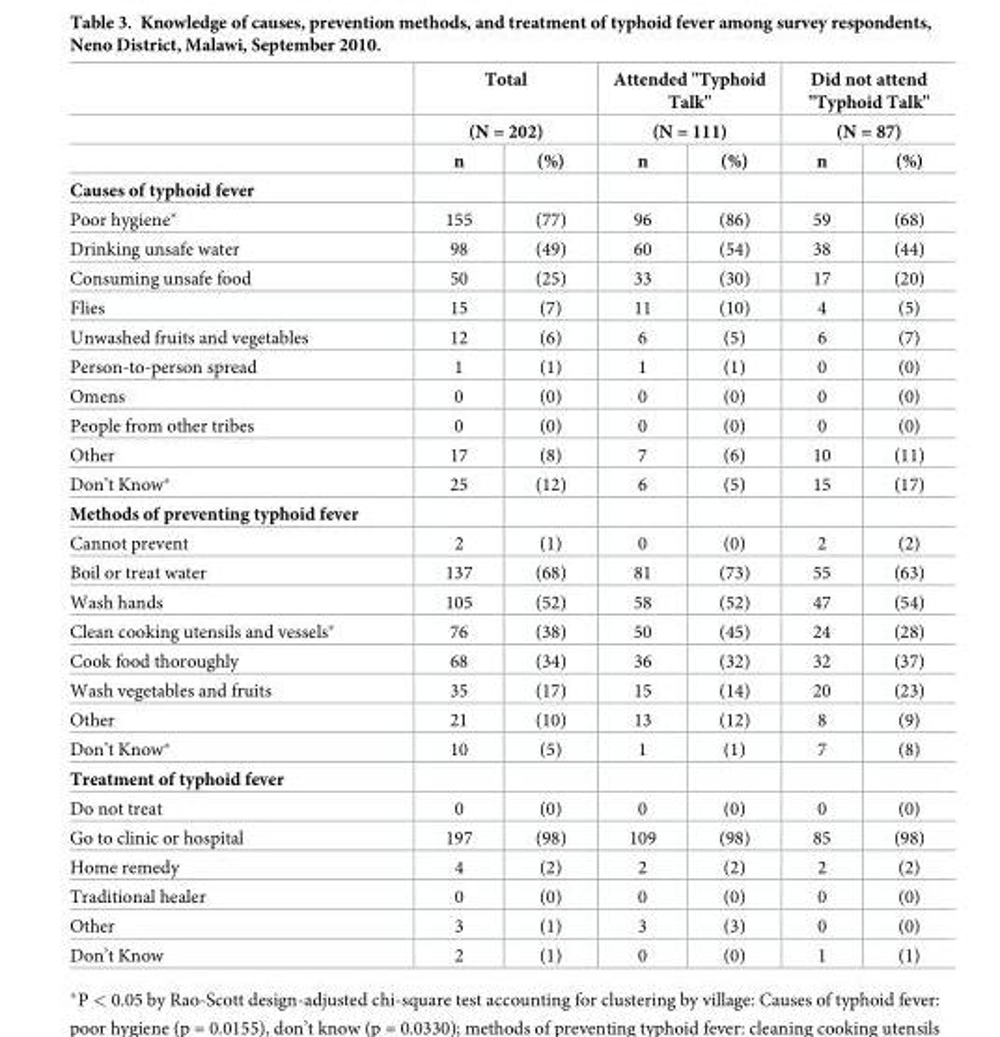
<table><thead><tr><td rowspan="3"></td><td rowspan="2" colspan="2">Total (N = 202)</td><td rowspan="2" colspan="2">Attended &quot;Typhoid Talk&quot; (N = 111)</td><td rowspan="2" colspan="2">Did not attend &quot;Typhoid Talk&quot; (N = 87)</td></tr><tr></tr><tr><td>n</td><td>(%)</td><td>n</td><td>(%)</td><td>n</td><td>(%)</td></tr></thead><tbody><tr><td colspan="7">Causes of typhoid fever</td></tr><tr><td>Poor hygiene*</td><td>155</td><td>(77)</td><td>96</td><td>(86)</td><td>59</td><td>(68)</td></tr><tr><td>Drinking unsafe water</td><td>98</td><td>(49)</td><td>60</td><td>(54)</td><td>38</td><td>(44)</td></tr><tr><td>Consuming unsafe food</td><td>50</td><td>(25)</td><td>33</td><td>(30)</td><td>17</td><td>(20)</td></tr><tr><td>Flies</td><td>15</td><td>(7)</td><td>11</td><td>(10)</td><td>4</td><td>(5)</td></tr><tr><td>Unwashed fruits and vegetables</td><td>12</td><td>(6)</td><td>6</td><td>(5)</td><td>6</td><td>(7)</td></tr><tr><td>Person-to-person spread</td><td>1</td><td>(1)</td><td>1</td><td>(1)</td><td>0</td><td>(0)</td></tr><tr><td>Omens</td><td>0</td><td>(0)</td><td>0</td><td>(0)</td><td>0</td><td>(0)</td></tr><tr><td>People from other tribes</td><td>0</td><td>(0)</td><td>0</td><td>(0)</td><td>0</td><td>(0)</td></tr><tr><td>Other</td><td>17</td><td>(8)</td><td>7</td><td>(6)</td><td>10</td><td>(11)</td></tr><tr><td>Don’t Know*</td><td>25</td><td>(12)</td><td>6</td><td>(5)</td><td>15</td><td>(17)</td></tr><tr><td colspan="7">Methods of preventing typhoid fever</td></tr><tr><td>Cannot prevent</td><td>2</td><td>(1)</td><td>0</td><td>(0)</td><td>2</td><td>(2)</td></tr><tr><td>Boil or treat water</td><td>137</td><td>(68)</td><td>81</td><td>(73)</td><td>55</td><td>(63)</td></tr><tr><td>Wash hands</td><td>105</td><td>(52)</td><td>58</td><td>(52)</td><td>47</td><td>(54)</td></tr><tr><td>Clean cooking utensils and vessels*</td><td>76</td><td>(38)</td><td>50</td><td>(45)</td><td>24</td><td>(28)</td></tr><tr><td>Cook food thoroughly</td><td>68</td><td>(34)</td><td>36</td><td>(32)</td><td>32</td><td>(37)</td></tr><tr><td>Wash vegetables and fruits</td><td>35</td><td>(17)</td><td>15</td><td>(14)</td><td>20</td><td>(23)</td></tr><tr><td>Other</td><td>21</td><td>(10)</td><td>13</td><td>(12)</td><td>8</td><td>(9)</td></tr><tr><td>Don’t Know*</td><td>10</td><td>(5)</td><td>1</td><td>(1)</td><td>7</td><td>(8)</td></tr><tr><td colspan="7">Treatment of typhoid fever</td></tr><tr><td>Do not treat</td><td>0</td><td>(0)</td><td>0</td><td>(0)</td><td>0</td><td>(0)</td></tr><tr><td>Go to clinic or hospital</td><td>197</td><td>(98)</td><td>109</td><td>(98)</td><td>85</td><td>(98)</td></tr><tr><td>Home remedy</td><td>4</td><td>(2)</td><td>2</td><td>(2)</td><td>2</td><td>(2)</td></tr><tr><td>Traditional healer</td><td>0</td><td>(0)</td><td>0</td><td>(0)</td><td>0</td><td>(0)</td></tr><tr><td>Other</td><td>3</td><td>(1)</td><td>3</td><td>(3)</td><td>0</td><td>(0)</td></tr><tr><td>Don’t Know</td><td>2</td><td>(1)</td><td>0</td><td>(0)</td><td>1</td><td>(1)</td></tr></tbody></table>